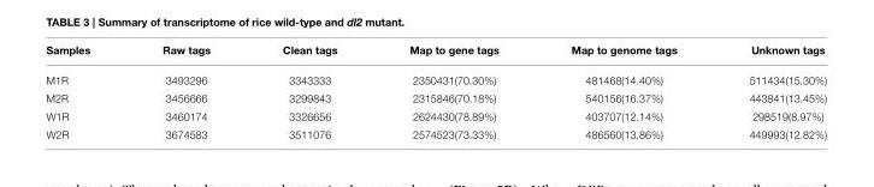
<table><thead><tr><td>Samples</td><td>Raw tags</td><td>Clean tags</td><td>Map to gene tags</td><td>Map to genome tags</td><td>Unknown tags</td></tr></thead><tbody><tr><td>M1R</td><td>3493296</td><td>3343333</td><td>2350431(70.30%)</td><td>481468(14.40%)</td><td>511434(15.30%)</td></tr><tr><td>M2R</td><td>3456666</td><td>3299843</td><td>2315846(70.18%)</td><td>540156(16.37%)</td><td>443841(13.45%)</td></tr><tr><td>W1R</td><td>3460174</td><td>3326656</td><td>2624430(78.89%)</td><td>403707(12.14%)</td><td>298519(8.97%)</td></tr><tr><td>W2R</td><td>3674583</td><td>3511076</td><td>2574523(73.33%)</td><td>486560(13.86%)</td><td>449993(12.82%)</td></tr></tbody></table>